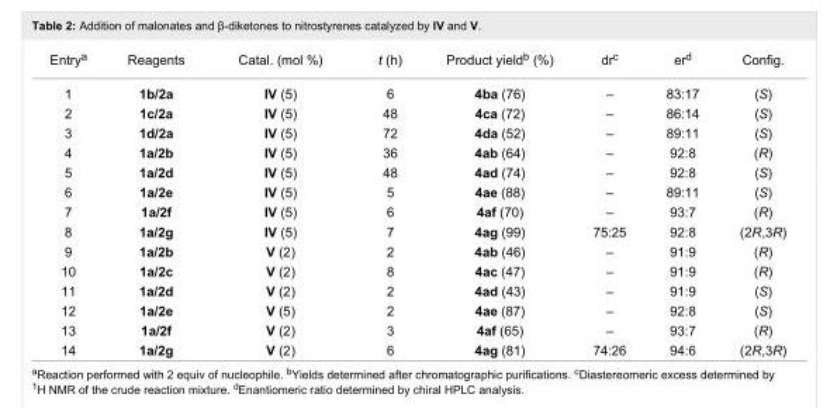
<table><tbody><tr><td>Entry<sup>a</sup></td><td>Reagents</td><td>Catal. (mol %)</td><td>t (h)</td><td>Product yield<sup>b</sup> (%)</td><td>dr<sup>c</sup></td><td>er<sup>d</sup></td><td>Config.</td></tr><tr><td>1</td><td>1b/2a</td><td>IV (5)</td><td>6</td><td>4ba (76)</td><td>–</td><td>83:17</td><td>(S)</td></tr><tr><td>2</td><td>1c/2a</td><td>IV (5)</td><td>48</td><td>4ca (72)</td><td>–</td><td>86:14</td><td>(S)</td></tr><tr><td>3</td><td>1d/2a</td><td>IV (5)</td><td>72</td><td>4da (52)</td><td>–</td><td>89:11</td><td>(S)</td></tr><tr><td>4</td><td>1a/2b</td><td>IV (5)</td><td>36</td><td>4ab (64)</td><td>–</td><td>92:8</td><td>(R)</td></tr><tr><td>5</td><td>1a/2d</td><td>IV (5)</td><td>48</td><td>4ad (74)</td><td>–</td><td>92:8</td><td>(S)</td></tr><tr><td>6</td><td>1a/2e</td><td>IV (5)</td><td>5</td><td>4ae (88)</td><td>–</td><td>89:11</td><td>(S)</td></tr><tr><td>7</td><td>1a/2f</td><td>IV (5)</td><td>6</td><td>4af (70)</td><td>–</td><td>93:7</td><td>(R)</td></tr><tr><td>8</td><td>1a/2g</td><td>IV (5)</td><td>7</td><td>4ag (99)</td><td>75:25</td><td>92:8</td><td>(2R,3R)</td></tr><tr><td>9</td><td>1a/2b</td><td>V (2)</td><td>2</td><td>4ab (46)</td><td>–</td><td>91:9</td><td>(R)</td></tr><tr><td>10</td><td>1a/2c</td><td>V (2)</td><td>8</td><td>4ac (47)</td><td>–</td><td>91:9</td><td>(R)</td></tr><tr><td>11</td><td>1a/2d</td><td>V (2)</td><td>2</td><td>4ad (43)</td><td>–</td><td>91:9</td><td>(S)</td></tr><tr><td>12</td><td>1a/2e</td><td>V (5)</td><td>2</td><td>4ae (87)</td><td>–</td><td>92:8</td><td>(S)</td></tr><tr><td>13</td><td>1a/2f</td><td>V (2)</td><td>3</td><td>4af (65)</td><td>–</td><td>93:7</td><td>(R)</td></tr><tr><td>14</td><td>1a/2g</td><td>V (2)</td><td>6</td><td>4ag (81)</td><td>74:26</td><td>94:6</td><td>(2R,3R)</td></tr></tbody></table>